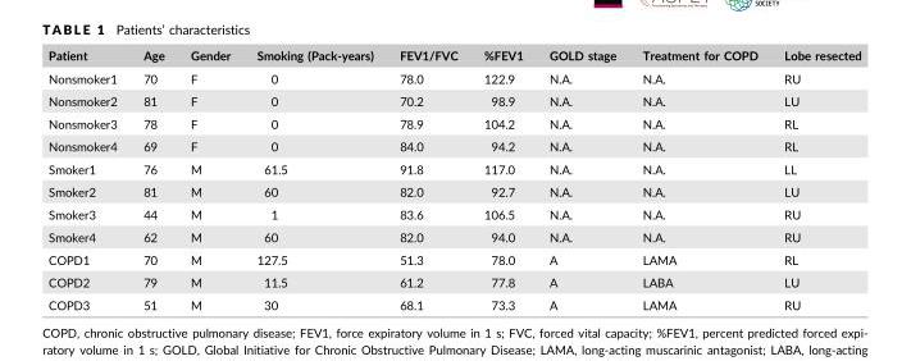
<table><thead><tr><td>Patient</td><td>Age</td><td>Gender</td><td>Smoking (Pack-years)</td><td>FEV1/FVC</td><td>%FEV1</td><td>GOLD stage</td><td>Treatment for COPD</td><td>Lobe resected</td></tr></thead><tbody><tr><td>Nonsmoker1</td><td>70</td><td>F</td><td>0</td><td>78.0</td><td>122.9</td><td>N.A.</td><td>N.A.</td><td>RU</td></tr><tr><td>Nonsmoker2</td><td>81</td><td>F</td><td>0</td><td>70.2</td><td>98.9</td><td>N.A.</td><td>N.A.</td><td>LU</td></tr><tr><td>Nonsmoker3</td><td>78</td><td>F</td><td>0</td><td>78.9</td><td>104.2</td><td>N.A.</td><td>N.A.</td><td>RL</td></tr><tr><td>Nonsmoker4</td><td>69</td><td>F</td><td>0</td><td>84.0</td><td>94.2</td><td>N.A.</td><td>N.A.</td><td>RL</td></tr><tr><td>Smoker1</td><td>76</td><td>M</td><td>61.5</td><td>91.8</td><td>117.0</td><td>N.A.</td><td>N.A.</td><td>LL</td></tr><tr><td>Smoker2</td><td>81</td><td>M</td><td>60</td><td>82.0</td><td>92.7</td><td>N.A.</td><td>N.A.</td><td>LU</td></tr><tr><td>Smoker3</td><td>44</td><td>M</td><td>1</td><td>83.6</td><td>106.5</td><td>N.A.</td><td>N.A.</td><td>RU</td></tr><tr><td>Smoker4</td><td>62</td><td>M</td><td>60</td><td>82.0</td><td>94.0</td><td>N.A.</td><td>N.A.</td><td>RU</td></tr><tr><td>COPD1</td><td>70</td><td>M</td><td>127.5</td><td>51.3</td><td>78.0</td><td>A</td><td>LAMA</td><td>RL</td></tr><tr><td>COPD2</td><td>79</td><td>M</td><td>11.5</td><td>61.2</td><td>77.8</td><td>A</td><td>LABA</td><td>LU</td></tr><tr><td>COPD3</td><td>51</td><td>M</td><td>30</td><td>68.1</td><td>73.3</td><td>A</td><td>LAMA</td><td>RU</td></tr></tbody></table>